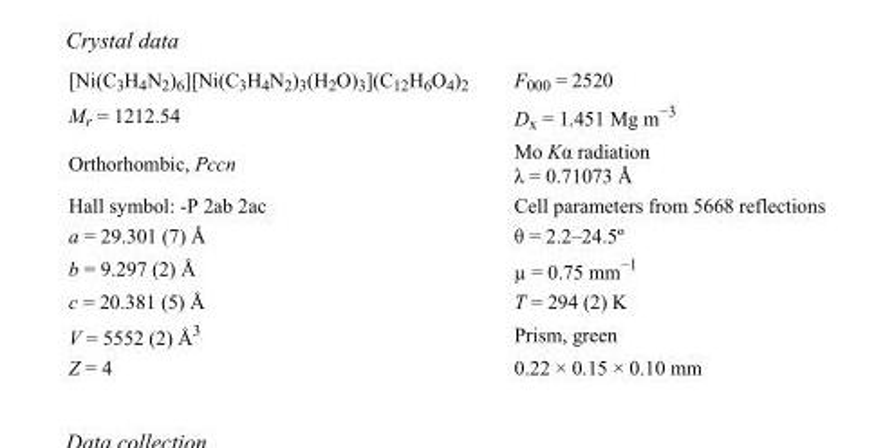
<table><tbody><tr><td>[Ni(C<sub>3</sub>H<sub>4</sub>N<sub>2</sub>)<sub>6</sub>][Ni(C<sub>3</sub>H<sub>4</sub>N<sub>2</sub>)<sub>3</sub>(H<sub>2</sub>O)<sub>3</sub>](C<sub>12</sub>H<sub>6</sub>O<sub>4</sub>)<sub>2</sub></td><td>F<sub>000</sub> = 2520</td></tr><tr><td>M<sub>r</sub> = 1212.54</td><td>D<sub>x</sub> = 1.451 Mg m<sup>−3</sup></td></tr><tr><td>Orthorhombic, Pccn</td><td>Mo Kα radiation λ = 0.71073 Å</td></tr><tr><td>Hall symbol: -P 2ab 2ac</td><td>Cell parameters from 5668 reflections</td></tr><tr><td>a = 29.301 (7) Å</td><td>θ = 2.2–24.5º</td></tr><tr><td>b = 9.297 (2) Å</td><td>µ = 0.75 mm<sup>−1</sup></td></tr><tr><td>c = 20.381 (5) Å</td><td>T = 294 (2) K</td></tr><tr><td>V = 5552 (2) Å<sup>3</sup></td><td>Prism, green</td></tr><tr><td>Z = 4</td><td>0.22 × 0.15 × 0.10 mm</td></tr></tbody></table>